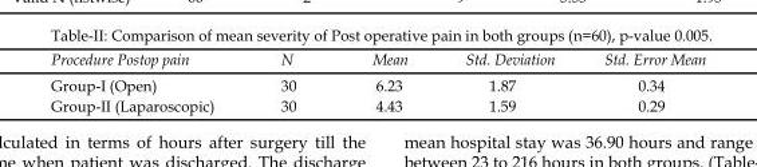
<table><thead><tr><td>Procedure Postop pain</td><td>N</td><td>Mean</td><td>Std. Deviation</td><td>Std. Error Mean</td></tr></thead><tbody><tr><td>Group-I (Open)</td><td>30</td><td>6.23</td><td>1.87</td><td>0.34</td></tr><tr><td>Group-II (Laparoscopic)</td><td>30</td><td>4.43</td><td>1.59</td><td>0.29</td></tr></tbody></table>